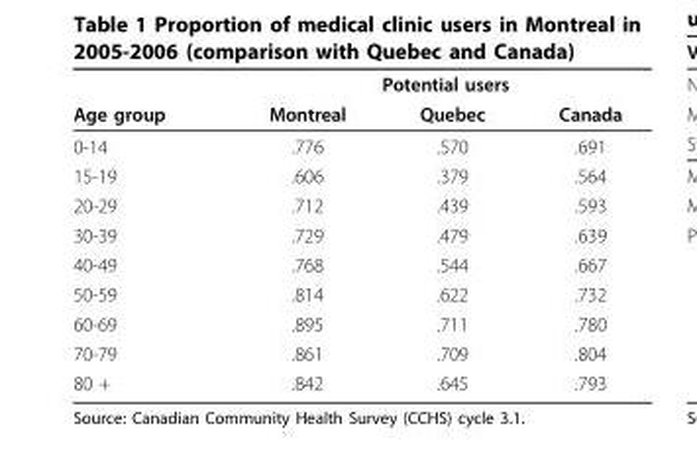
<table><thead><tr><td rowspan="2">Age group</td><td colspan="3">Potential users</td></tr><tr><td>Montreal</td><td>Quebec</td><td>Canada</td></tr></thead><tbody><tr><td>0-14</td><td>.776</td><td>.570</td><td>.691</td></tr><tr><td>15-19</td><td>.606</td><td>.379</td><td>.564</td></tr><tr><td>20-29</td><td>.712</td><td>.439</td><td>.593</td></tr><tr><td>30-39</td><td>.729</td><td>.479</td><td>.639</td></tr><tr><td>40-49</td><td>.768</td><td>.544</td><td>.667</td></tr><tr><td>50-59</td><td>.814</td><td>.622</td><td>.732</td></tr><tr><td>60-69</td><td>.895</td><td>.711</td><td>.780</td></tr><tr><td>70-79</td><td>.861</td><td>.709</td><td>.804</td></tr><tr><td>80 +</td><td>.842</td><td>.645</td><td>.793</td></tr></tbody></table>